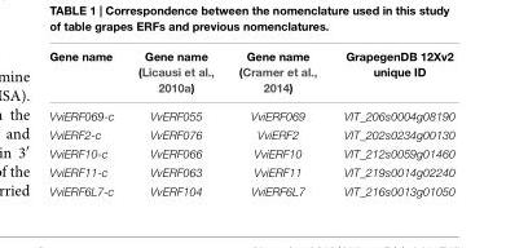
<table><thead><tr><td>Gene name</td><td>Gene name (Licausi et al., 2010a)</td><td>Gene name (Cramer et al., 2014)</td><td>GrapegenDB 12Xv2 unique ID</td></tr></thead><tbody><tr><td>VviERF069-c</td><td>VvERF055</td><td>VviERF069</td><td>VIT_206s0004g08190</td></tr><tr><td>VviERF2-c</td><td>VvERF076</td><td>VviERF2</td><td>VIT_202s0234g00130</td></tr><tr><td>VviERF10-c</td><td>VvERF066</td><td>VviERF10</td><td>VIT_212s0059g01460</td></tr><tr><td>VviERF11-c</td><td>VvERF063</td><td>VviERF11</td><td>VIT_219s0014g02240</td></tr><tr><td>VviERF6L7-c</td><td>VvERF104</td><td>VviERF6L7</td><td>VIT_216s0013g01050</td></tr></tbody></table>